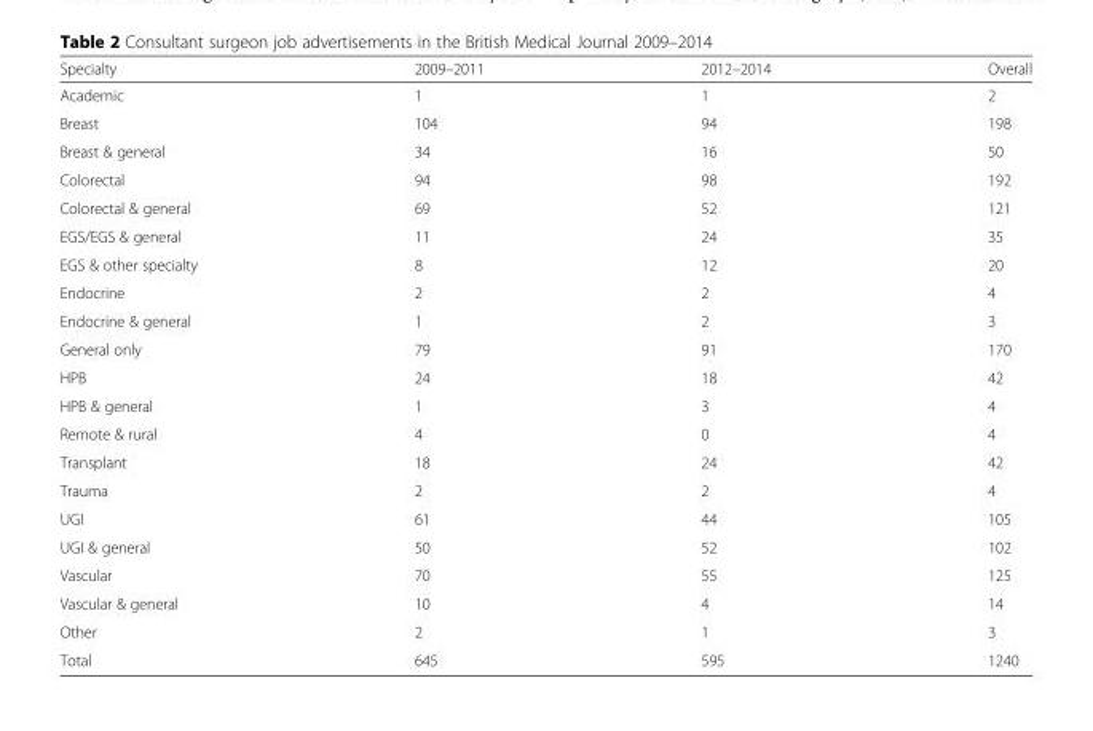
<table><thead><tr><td>Specialty</td><td>2009–2011</td><td>2012–2014</td><td>Overall</td></tr></thead><tbody><tr><td>Academic</td><td>1</td><td>1</td><td>2</td></tr><tr><td>Breast</td><td>104</td><td>94</td><td>198</td></tr><tr><td>Breast &amp; general</td><td>34</td><td>16</td><td>50</td></tr><tr><td>Colorectal</td><td>94</td><td>98</td><td>192</td></tr><tr><td>Colorectal &amp; general</td><td>69</td><td>52</td><td>121</td></tr><tr><td>EGS/EGS &amp; general</td><td>11</td><td>24</td><td>35</td></tr><tr><td>EGS &amp; other specialty</td><td>8</td><td>12</td><td>20</td></tr><tr><td>Endocrine</td><td>2</td><td>2</td><td>4</td></tr><tr><td>Endocrine &amp; general</td><td>1</td><td>2</td><td>3</td></tr><tr><td>General only</td><td>79</td><td>91</td><td>170</td></tr><tr><td>HPB</td><td>24</td><td>18</td><td>42</td></tr><tr><td>HPB &amp; general</td><td>1</td><td>3</td><td>4</td></tr><tr><td>Remote &amp; rural</td><td>4</td><td>0</td><td>4</td></tr><tr><td>Transplant</td><td>18</td><td>24</td><td>42</td></tr><tr><td>Trauma</td><td>2</td><td>2</td><td>4</td></tr><tr><td>UGI</td><td>61</td><td>44</td><td>105</td></tr><tr><td>UGI &amp; general</td><td>50</td><td>52</td><td>102</td></tr><tr><td>Vascular</td><td>70</td><td>55</td><td>125</td></tr><tr><td>Vascular &amp; general</td><td>10</td><td>4</td><td>14</td></tr><tr><td>Other</td><td>2</td><td>1</td><td>3</td></tr><tr><td>Total</td><td>645</td><td>595</td><td>1240</td></tr></tbody></table>